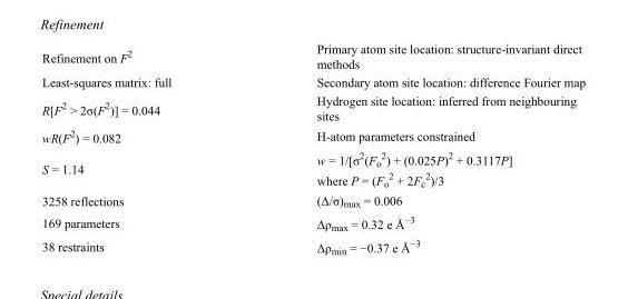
<table><tbody><tr><td>Refinement on F<sup>2</sup></td><td>Primary atom site location: structure-invariant direct methods</td></tr><tr><td>Least-squares matrix: full</td><td>Secondary atom site location: difference Fourier map</td></tr><tr><td>R[F<sup>2</sup> &gt; 2σ(F<sup>2</sup>)] = 0.044</td><td>Hydrogen site location: inferred from neighbouring sites</td></tr><tr><td>wR(F<sup>2</sup>) = 0.082</td><td>H-atom parameters constrained</td></tr><tr><td>S = 1.14</td><td>w = 1/[σ<sup>2</sup>(F<sub>o</sub> <sup>2</sup>) + (0.025P)<sup>2</sup> + 0.3117P] where P = (F<sub>o</sub> <sup>2</sup> + 2F<sub>c</sub> <sup>2</sup>)/3</td></tr><tr><td>3258 reflections</td><td>(Δ/σ)<sub>max</sub> = 0.006</td></tr><tr><td>169 parameters</td><td>Δρ<sub>max</sub> = 0.32 e Å<sup>−3</sup></td></tr><tr><td>38 restraints</td><td>Δρ<sub>min</sub> = −0.37 e Å<sup>−3</sup></td></tr></tbody></table>